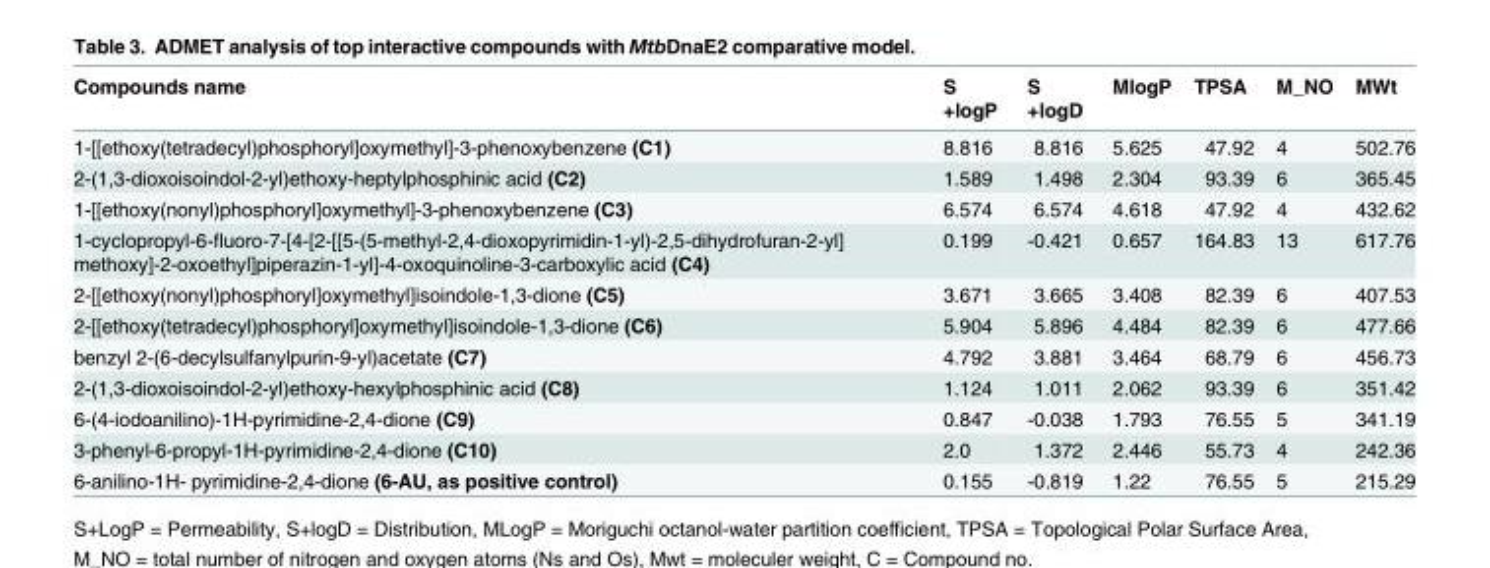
<table><thead><tr><td>Compounds name</td><td>S +logP</td><td>S +logD</td><td>MlogP</td><td>TPSA</td><td>M_NO</td><td>MWt</td></tr></thead><tbody><tr><td>1-[[ethoxy(tetradecyl)phosphoryl]oxymethyl]-3-phenoxybenzene (C1)</td><td>8.816</td><td>8.816</td><td>5.625</td><td>47.92</td><td>4</td><td>502.76</td></tr><tr><td>2-(1,3-dioxoisoindol-2-yl)ethoxy-heptylphosphinic acid (C2)</td><td>1.589</td><td>1.498</td><td>2.304</td><td>93.39</td><td>6</td><td>365.45</td></tr><tr><td>1-[[ethoxy(nonyl)phosphoryl]oxymethyl]-3-phenoxybenzene (C3)</td><td>6.574</td><td>6.574</td><td>4.618</td><td>47.92</td><td>4</td><td>432.62</td></tr><tr><td>1-cyclopropyl-6-fluoro-7-[4-[2-[[5-(5-methyl-2,4-dioxopyrimidin-1-yl)-2,5-dihydrofuran-2-yl] methoxy]-2-oxoethyl]piperazin-1-yl]-4-oxoquinoline-3-carboxylic acid (C4)</td><td>0.199</td><td>-0.421</td><td>0.657</td><td>164.83</td><td>13</td><td>617.76</td></tr><tr><td>2-[[ethoxy(nonyl)phosphoryl]oxymethyl]isoindole-1,3-dione (C5)</td><td>3.671</td><td>3.665</td><td>3.408</td><td>82.39</td><td>6</td><td>407.53</td></tr><tr><td>2-[[ethoxy(tetradecyl)phosphoryl]oxymethyl]isoindole-1,3-dione (C6)</td><td>5.904</td><td>5.896</td><td>4.484</td><td>82.39</td><td>6</td><td>477.66</td></tr><tr><td>benzyl 2-(6-decylsulfanylpurin-9-yl)acetate (C7)</td><td>4.792</td><td>3.881</td><td>3.464</td><td>68.79</td><td>6</td><td>456.73</td></tr><tr><td>2-(1,3-dioxoisoindol-2-yl)ethoxy-hexylphosphinic acid (C8)</td><td>1.124</td><td>1.011</td><td>2.062</td><td>93.39</td><td>6</td><td>351.42</td></tr><tr><td>6-(4-iodoanilino)-1H-pyrimidine-2,4-dione (C9)</td><td>0.847</td><td>-0.038</td><td>1.793</td><td>76.55</td><td>5</td><td>341.19</td></tr><tr><td>3-phenyl-6-propyl-1H-pyrimidine-2,4-dione (C10)</td><td>2.0</td><td>1.372</td><td>2.446</td><td>55.73</td><td>4</td><td>242.36</td></tr><tr><td>6-anilino-1H- pyrimidine-2,4-dione (6-AU, as positive control)</td><td>0.155</td><td>-0.819</td><td>1.22</td><td>76.55</td><td>5</td><td>215.29</td></tr></tbody></table>